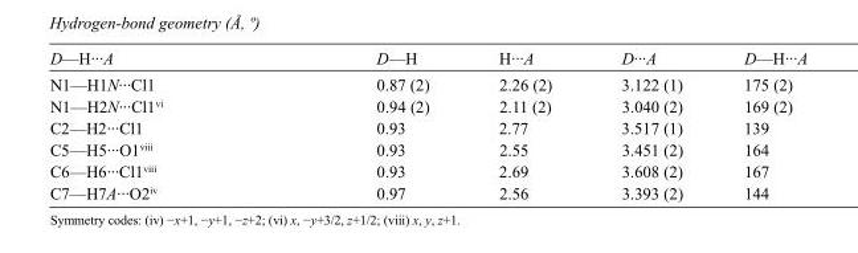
<table><tbody><tr><td>D—H···A</td><td>D—H</td><td>H···A</td><td>D···A</td><td>D—H···A</td></tr><tr><td>N1—H1N···Cl1</td><td>0.87 (2)</td><td>2.26 (2)</td><td>3.122 (1)</td><td>175 (2)</td></tr><tr><td>N1—H2N···Cl1<sup>vi</sup></td><td>0.94 (2)</td><td>2.11 (2)</td><td>3.040 (2)</td><td>169 (2)</td></tr><tr><td>C2—H2···Cl1</td><td>0.93</td><td>2.77</td><td>3.517 (1)</td><td>139</td></tr><tr><td>C5—H5···O1<sup>viii</sup></td><td>0.93</td><td>2.55</td><td>3.451 (2)</td><td>164</td></tr><tr><td>C6—H6···Cl1<sup>viii</sup></td><td>0.93</td><td>2.69</td><td>3.608 (2)</td><td>167</td></tr><tr><td>C7—H7A···O2<sup>iv</sup></td><td>0.97</td><td>2.56</td><td>3.393 (2)</td><td>144</td></tr></tbody></table>